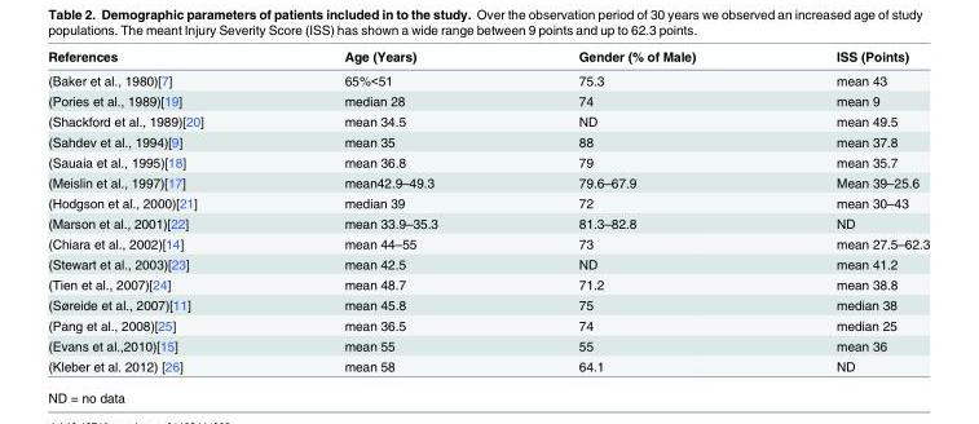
<table><thead><tr><td>References</td><td>Age (Years)</td><td>Gender (% of Male)</td><td>ISS (Points)</td></tr></thead><tbody><tr><td>(Baker et al., 1980)[7]</td><td>65%&lt;51</td><td>75.3</td><td>mean 43</td></tr><tr><td>(Pories et al., 1989)[19]</td><td>median 28</td><td>74</td><td>mean 9</td></tr><tr><td>(Shackford et al., 1989)[20]</td><td>mean 34.5</td><td>ND</td><td>mean 49.5</td></tr><tr><td>(Sahdev et al., 1994)[9]</td><td>mean 35</td><td>88</td><td>mean 37.8</td></tr><tr><td>(Sauaia et al., 1995)[18]</td><td>mean 36.8</td><td>79</td><td>mean 35.7</td></tr><tr><td>(Meislin et al., 1997)[17]</td><td>mean42.9–49.3</td><td>79.6–67.9</td><td>Mean 39–25.6</td></tr><tr><td>(Hodgson et al., 2000)[21]</td><td>median 39</td><td>72</td><td>mean 30–43</td></tr><tr><td>(Marson et al., 2001)[22]</td><td>mean 33.9–35.3</td><td>81.3–82.8</td><td>ND</td></tr><tr><td>(Chiara et al., 2002)[14]</td><td>mean 44–55</td><td>73</td><td>mean 27.5–62.3</td></tr><tr><td>(Stewart et al., 2003)[23]</td><td>mean 42.5</td><td>ND</td><td>mean 41.2</td></tr><tr><td>(Tien et al., 2007)[24]</td><td>mean 48.7</td><td>71.2</td><td>mean 38.8</td></tr><tr><td>(Søreide et al., 2007)[11]</td><td>mean 45.8</td><td>75</td><td>median 38</td></tr><tr><td>(Pang et al., 2008)[25]</td><td>mean 36.5</td><td>74</td><td>median 25</td></tr><tr><td>(Evans et al.,2010)[15]</td><td>mean 55</td><td>55</td><td>mean 36</td></tr><tr><td>(Kleber et al. 2012) [26]</td><td>mean 58</td><td>64.1</td><td>ND</td></tr></tbody></table>